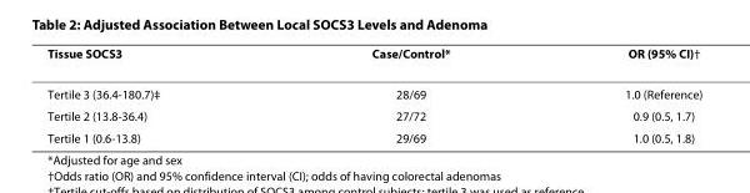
<table><thead><tr><td>Tissue SOCS3</td><td>Case/Control*</td><td>OR (95% CI)†</td></tr></thead><tbody><tr><td>Tertile 3 (36.4-180.7)‡</td><td>28/69</td><td>1.0 (Reference)</td></tr><tr><td>Tertile 2 (13.8-36.4)</td><td>27/72</td><td>0.9 (0.5, 1.7)</td></tr><tr><td>Tertile 1 (0.6-13.8)</td><td>29/69</td><td>1.0 (0.5, 1.8)</td></tr></tbody></table>